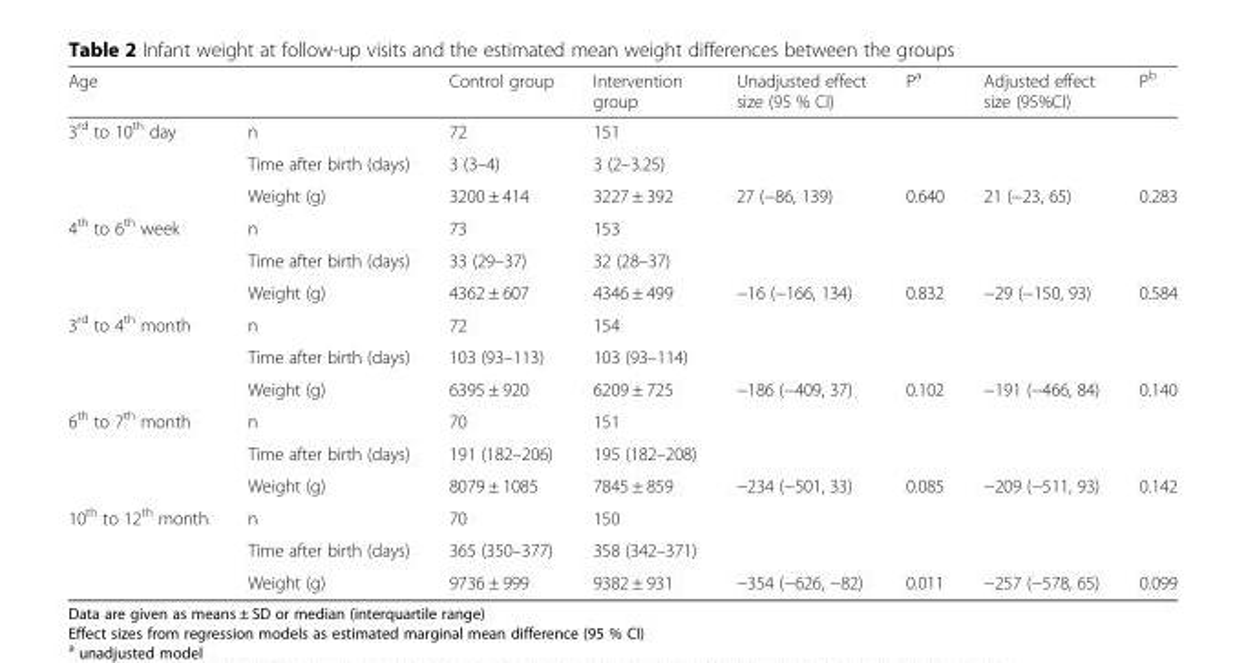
<table><thead><tr><td>Age</td><td></td><td>Control group</td><td>Intervention group</td><td>Unadjusted effect size (95 % CI)</td><td>P<sup>a</sup></td><td>Adjusted effect size (95%CI)</td><td>P<sup>b</sup></td></tr></thead><tbody><tr><td rowspan="3">3<sup>rd</sup> to 10<sup>th</sup> day</td><td>n</td><td>72</td><td>151</td><td></td><td></td><td></td><td></td></tr><tr><td>Time after birth (days)</td><td>3 (3–4)</td><td>3 (2–3.25)</td><td></td><td></td><td></td><td></td></tr><tr><td>Weight (g)</td><td>3200 ± 414</td><td>3227 ± 392</td><td>27 (−86, 139)</td><td>0.640</td><td>21 (−23, 65)</td><td>0.283</td></tr><tr><td rowspan="3">4<sup>th</sup> to 6<sup>th</sup> week</td><td>n</td><td>73</td><td>153</td><td></td><td></td><td></td><td></td></tr><tr><td>Time after birth (days)</td><td>33 (29–37)</td><td>32 (28–37)</td><td></td><td></td><td></td><td></td></tr><tr><td>Weight (g)</td><td>4362 ± 607</td><td>4346 ± 499</td><td>−16 (−166, 134)</td><td>0.832</td><td>−29 (−150, 93)</td><td>0.584</td></tr><tr><td rowspan="3">3<sup>rd</sup> to 4<sup>th</sup> month</td><td>n</td><td>72</td><td>154</td><td></td><td></td><td></td><td></td></tr><tr><td>Time after birth (days)</td><td>103 (93–113)</td><td>103 (93–114)</td><td></td><td></td><td></td><td></td></tr><tr><td>Weight (g)</td><td>6395 ± 920</td><td>6209 ± 725</td><td>−186 (−409, 37)</td><td>0.102</td><td>−191 (−466, 84)</td><td>0.140</td></tr><tr><td rowspan="3">6<sup>th</sup> to 7<sup>th</sup> month</td><td>n</td><td>70</td><td>151</td><td></td><td></td><td></td><td></td></tr><tr><td>Time after birth (days)</td><td>191 (182–206)</td><td>195 (182–208)</td><td></td><td></td><td></td><td></td></tr><tr><td>Weight (g)</td><td>8079 ± 1085</td><td>7845 ± 859</td><td>−234 (−501, 33)</td><td>0.085</td><td>−209 (−511, 93)</td><td>0.142</td></tr><tr><td rowspan="3">10<sup>th</sup> to 12<sup>th</sup> month</td><td>n</td><td>70</td><td>150</td><td></td><td></td><td></td><td></td></tr><tr><td>Time after birth (days)</td><td>365 (350–377)</td><td>358 (342–371)</td><td></td><td></td><td></td><td></td></tr><tr><td>Weight (g)</td><td>9736 ± 999</td><td>9382 ± 931</td><td>−354 (−626, −82)</td><td>0.011</td><td>−257 (−578, 65)</td><td>0.099</td></tr></tbody></table>